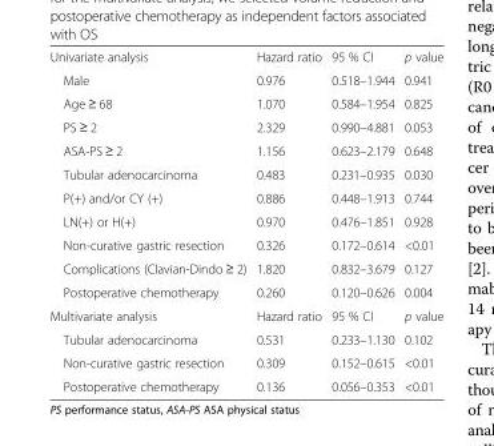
<table><tbody><tr><td>Univariate analysis</td><td>Hazard ratio</td><td>95 % CI</td><td>p value</td></tr><tr><td>Male</td><td>0.976</td><td>0.518–1.944</td><td>0.941</td></tr><tr><td>Age ≥ 68</td><td>1.070</td><td>0.584–1.954</td><td>0.825</td></tr><tr><td>PS ≥ 2</td><td>2.329</td><td>0.990–4.881</td><td>0.053</td></tr><tr><td>ASA-PS ≥ 2</td><td>1.156</td><td>0.623–2.179</td><td>0.648</td></tr><tr><td>Tubular adenocarcinoma</td><td>0.483</td><td>0.231–0.935</td><td>0.030</td></tr><tr><td>P(+) and/or CY (+)</td><td>0.886</td><td>0.448–1.913</td><td>0.744</td></tr><tr><td>LN(+) or H(+)</td><td>0.970</td><td>0.476–1.851</td><td>0.928</td></tr><tr><td>Non-curative gastric resection</td><td>0.326</td><td>0.172–0.614</td><td>&lt;0.01</td></tr><tr><td>Complications (Clavian-Dindo ≥ 2)</td><td>1.820</td><td>0.832–3.679</td><td>0.127</td></tr><tr><td>Postoperative chemotherapy</td><td>0.260</td><td>0.120–0.626</td><td>0.004</td></tr><tr><td>Multivariate analysis</td><td>Hazard ratio</td><td>95 % CI</td><td>p value</td></tr><tr><td>Tubular adenocarcinoma</td><td>0.531</td><td>0.233–1.130</td><td>0.102</td></tr><tr><td>Non-curative gastric resection</td><td>0.309</td><td>0.152–0.615</td><td>&lt;0.01</td></tr><tr><td>Postoperative chemotherapy</td><td>0.136</td><td>0.056–0.353</td><td>&lt;0.01</td></tr></tbody></table>